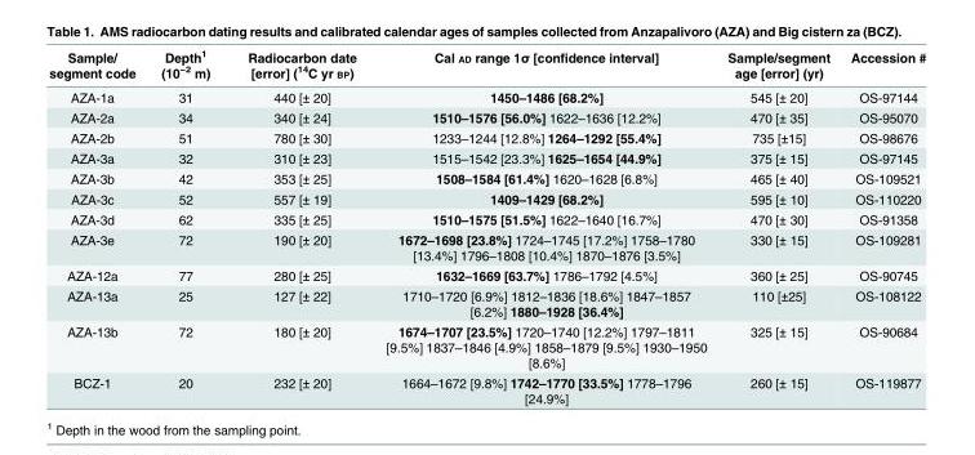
<table><thead><tr><td>Sample/ segment code</td><td>Depth<sup>1</sup> (10<sup>−2</sup> m)</td><td>Radiocarbon date [error] (<sup>14</sup>C yr BP)</td><td>Cal AD range 1σ [confidence interval]</td><td>Sample/segment age [error] (yr)</td><td>Accession #</td></tr></thead><tbody><tr><td>AZA-1a</td><td>31</td><td>440 [± 20]</td><td>1450–1486 [68.2%]</td><td>545 [± 20]</td><td>OS-97144</td></tr><tr><td>AZA-2a</td><td>34</td><td>340 [± 24]</td><td>1510–1576 [56.0%] 1622–1636 [12.2%]</td><td>470 [± 35]</td><td>OS-95070</td></tr><tr><td>AZA-2b</td><td>51</td><td>780 [± 30]</td><td>1233–1244 [12.8%] 1264–1292 [55.4%]</td><td>735 [±15]</td><td>OS-98676</td></tr><tr><td>AZA-3a</td><td>32</td><td>310 [± 23]</td><td>1515–1542 [23.3%] 1625–1654 [44.9%]</td><td>375 [± 15]</td><td>OS-97145</td></tr><tr><td>AZA-3b</td><td>42</td><td>353 [± 25]</td><td>1508–1584 [61.4%] 1620–1628 [6.8%]</td><td>465 [± 40]</td><td>OS-109521</td></tr><tr><td>AZA-3c</td><td>52</td><td>557 [± 19]</td><td>1409–1429 [68.2%]</td><td>595 [± 10]</td><td>OS-110220</td></tr><tr><td>AZA-3d</td><td>62</td><td>335 [± 25]</td><td>1510–1575 [51.5%] 1622–1640 [16.7%]</td><td>470 [± 30]</td><td>OS-91358</td></tr><tr><td>AZA-3e</td><td>72</td><td>190 [± 20]</td><td>1672–1698 [23.8%] 1724–1745 [17.2%] 1758–1780 [13.4%] 1796–1808 [10.4%] 1870–1876 [3.5%]</td><td>330 [± 15]</td><td>OS-109281</td></tr><tr><td>AZA-12a</td><td>77</td><td>280 [± 25]</td><td>1632–1669 [63.7%] 1786–1792 [4.5%]</td><td>360 [± 25]</td><td>OS-90745</td></tr><tr><td>AZA-13a</td><td>25</td><td>127 [± 22]</td><td>1710–1720 [6.9%] 1812–1836 [18.6%] 1847–1857 [6.2%] 1880–1928 [36.4%]</td><td>110 [±25]</td><td>OS-108122</td></tr><tr><td>AZA-13b</td><td>72</td><td>180 [± 20]</td><td>1674–1707 [23.5%] 1720–1740 [12.2%] 1797–1811 [9.5%] 1837–1846 [4.9%] 1858–1879 [9.5%] 1930–1950 [8.6%]</td><td>325 [± 15]</td><td>OS-90684</td></tr><tr><td>BCZ-1</td><td>20</td><td>232 [± 20]</td><td>1664–1672 [9.8%] 1742–1770 [33.5%] 1778–1796 [24.9%]</td><td>260 [± 15]</td><td>OS-119877</td></tr></tbody></table>